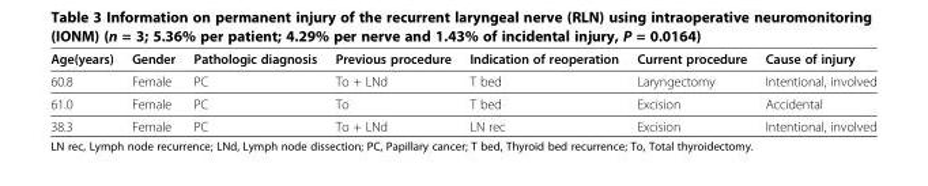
<table><thead><tr><td>Age(years)</td><td>Gender</td><td>Pathologic diagnosis</td><td>Previous procedure</td><td>Indication of reoperation</td><td>Current procedure</td><td>Cause of injury</td></tr></thead><tbody><tr><td>60.8</td><td>Female</td><td>PC</td><td>To + LNd</td><td>T bed</td><td>Laryngectomy</td><td>Intentional, involved</td></tr><tr><td>61.0</td><td>Female</td><td>PC</td><td>To</td><td>T bed</td><td>Excision</td><td>Accidental</td></tr><tr><td>38.3</td><td>Female</td><td>PC</td><td>To + LNd</td><td>LN rec</td><td>Excision</td><td>Intentional, involved</td></tr></tbody></table>